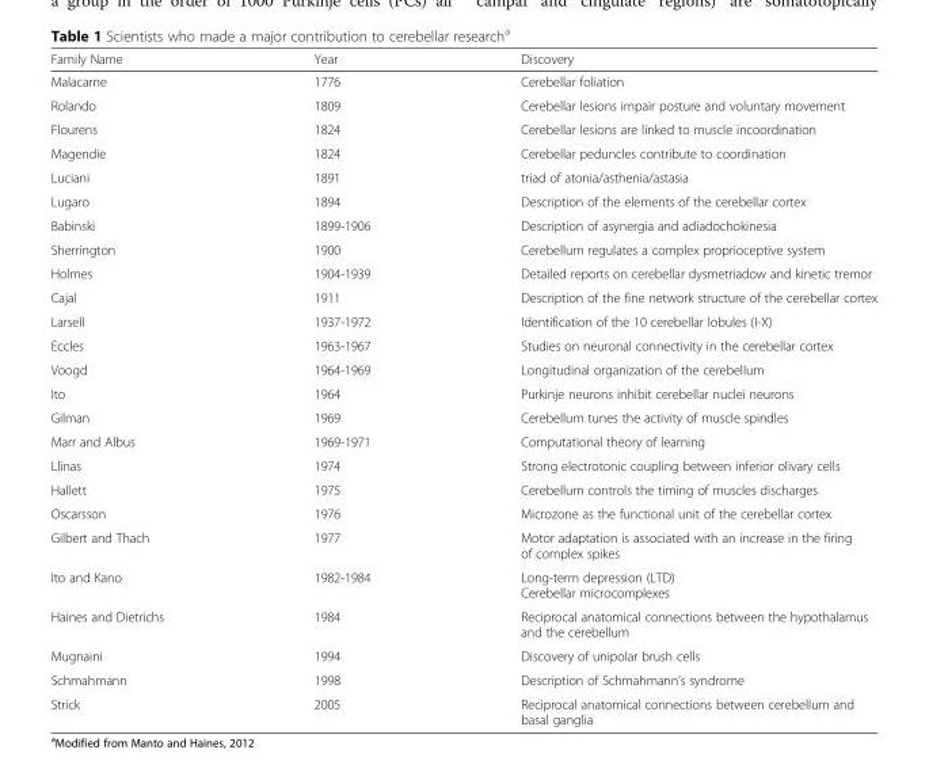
<table><thead><tr><td>Family Name</td><td>Year</td><td>Discovery</td></tr></thead><tbody><tr><td>Malacarne</td><td>1776</td><td>Cerebellar foliation</td></tr><tr><td>Rolando</td><td>1809</td><td>Cerebellar lesions impair posture and voluntary movement</td></tr><tr><td>Flourens</td><td>1824</td><td>Cerebellar lesions are linked to muscle incoordination</td></tr><tr><td>Magendie</td><td>1824</td><td>Cerebellar peduncles contribute to coordination</td></tr><tr><td>Luciani</td><td>1891</td><td>triad of atonia/asthenia/astasia</td></tr><tr><td>Lugaro</td><td>1894</td><td>Description of the elements of the cerebellar cortex</td></tr><tr><td>Babinski</td><td>1899-1906</td><td>Description of asynergia and adiadochokinesia</td></tr><tr><td>Sherrington</td><td>1900</td><td>Cerebellum regulates a complex proprioceptive system</td></tr><tr><td>Holmes</td><td>1904-1939</td><td>Detailed reports on cerebellar dysmetriadow and kinetic tremor</td></tr><tr><td>Cajal</td><td>1911</td><td>Description of the fine network structure of the cerebellar cortex</td></tr><tr><td>Larsell</td><td>1937-1972</td><td>Identification of the 10 cerebellar lobules (I-X)</td></tr><tr><td>Eccles</td><td>1963-1967</td><td>Studies on neuronal connectivity in the cerebellar cortex</td></tr><tr><td>Voogd</td><td>1964-1969</td><td>Longitudinal organization of the cerebellum</td></tr><tr><td>Ito</td><td>1964</td><td>Purkinje neurons inhibit cerebellar nuclei neurons</td></tr><tr><td>Gilman</td><td>1969</td><td>Cerebellum tunes the activity of muscle spindles</td></tr><tr><td>Marr and Albus</td><td>1969-1971</td><td>Computational theory of learning</td></tr><tr><td>Llinas</td><td>1974</td><td>Strong electrotonic coupling between inferior olivary cells</td></tr><tr><td>Hallett</td><td>1975</td><td>Cerebellum controls the timing of muscles discharges</td></tr><tr><td>Oscarsson</td><td>1976</td><td>Microzone as the functional unit of the cerebellar cortex</td></tr><tr><td>Gilbert and Thach</td><td>1977</td><td>Motor adaptation is associated with an increase in the firing of complex spikes</td></tr><tr><td>Ito and Kano</td><td>1982-1984</td><td>Long-term depression (LTD) Cerebellar microcomplexes</td></tr><tr><td>Haines and Dietrichs</td><td>1984</td><td>Reciprocal anatomical connections between the hypothalamus and the cerebellum</td></tr><tr><td>Mugnaini</td><td>1994</td><td>Discovery of unipolar brush cells</td></tr><tr><td>Schmahmann</td><td>1998</td><td>Description of Schmahmann’s syndrome</td></tr><tr><td>Strick</td><td>2005</td><td>Reciprocal anatomical connections between cerebellum and basal ganglia</td></tr></tbody></table>